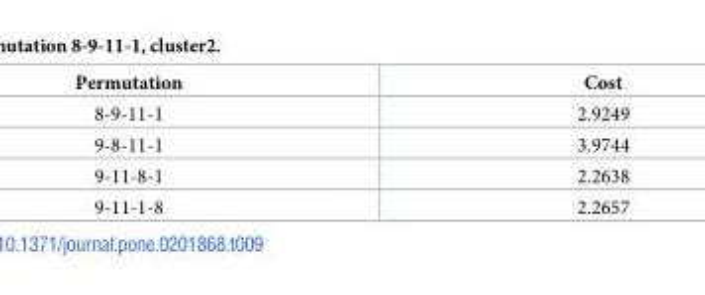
<table><thead><tr><td>Permutation</td><td>Cost</td></tr></thead><tbody><tr><td>8-9-11-1</td><td>2.9249</td></tr><tr><td>9-8-11-1</td><td>3.9744</td></tr><tr><td>9-11-8-1</td><td>2.2638</td></tr><tr><td>9-11-1-8</td><td>2.2657</td></tr></tbody></table>